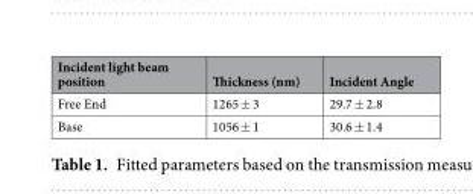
<table><thead><tr><td>Incident light beam position</td><td>Thickness (nm)</td><td>Incident Angle</td></tr></thead><tbody><tr><td>Free End</td><td>1265 ± 3</td><td>29.7 ± 2.8</td></tr><tr><td>Base</td><td>1056 ± 1</td><td>30.6 ± 1.4</td></tr></tbody></table>